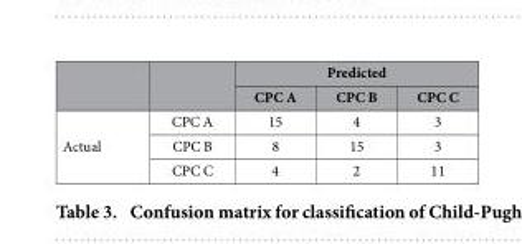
<table><thead><tr><td rowspan="2"></td><td rowspan="2"></td><td colspan="3">Predicted</td></tr><tr><td>CPC A</td><td>CPC B</td><td>CPC C</td></tr></thead><tbody><tr><td rowspan="3">Actual</td><td>CPC A</td><td>15</td><td>4</td><td>3</td></tr><tr><td>CPC B</td><td>8</td><td>15</td><td>3</td></tr><tr><td>CPC C</td><td>4</td><td>2</td><td>11</td></tr></tbody></table>